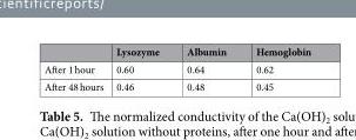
<table><thead><tr><td></td><td>Lysozyme</td><td>Albumin</td><td>Hemoglobin</td></tr></thead><tbody><tr><td>After 1 hour</td><td>0.60</td><td>0.64</td><td>0.62</td></tr><tr><td>After 48 hours</td><td>0.46</td><td>0.48</td><td>0.45</td></tr></tbody></table>